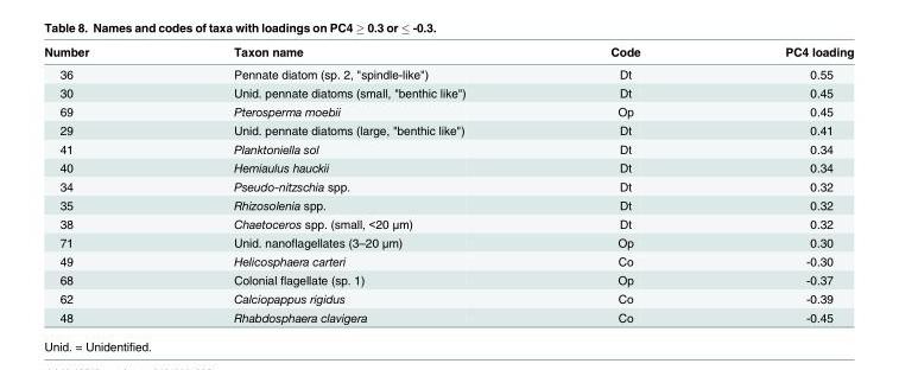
<table><thead><tr><td>Number</td><td>Taxon name</td><td>Code</td><td>PC4 loading</td></tr></thead><tbody><tr><td>36</td><td>Pennate diatom (sp. 2, &quot;spindle-like&quot;)</td><td>Dt</td><td>0.55</td></tr><tr><td>30</td><td>Unid. pennate diatoms (small, &quot;benthic like&quot;)</td><td>Dt</td><td>0.45</td></tr><tr><td>69</td><td>Pterosperma moebii</td><td>Op</td><td>0.45</td></tr><tr><td>29</td><td>Unid. pennate diatoms (large, &quot;benthic like&quot;)</td><td>Dt</td><td>0.41</td></tr><tr><td>41</td><td>Planktoniella sol</td><td>Dt</td><td>0.34</td></tr><tr><td>40</td><td>Hemiaulus hauckii</td><td>Dt</td><td>0.34</td></tr><tr><td>34</td><td>Pseudo-nitzschia spp.</td><td>Dt</td><td>0.32</td></tr><tr><td>35</td><td>Rhizosolenia spp.</td><td>Dt</td><td>0.32</td></tr><tr><td>38</td><td>Chaetoceros spp. (small, &lt;20 μm)</td><td>Dt</td><td>0.32</td></tr><tr><td>71</td><td>Unid. nanoflagellates (3–20 μm)</td><td>Op</td><td>0.30</td></tr><tr><td>49</td><td>Helicosphaera carteri</td><td>Co</td><td>-0.30</td></tr><tr><td>68</td><td>Colonial flagellate (sp. 1)</td><td>Op</td><td>-0.37</td></tr><tr><td>62</td><td>Calciopappus rigidus</td><td>Co</td><td>-0.39</td></tr><tr><td>48</td><td>Rhabdosphaera clavigera</td><td>Co</td><td>-0.45</td></tr></tbody></table>